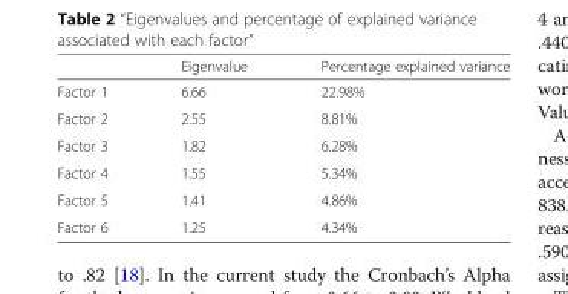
<table><thead><tr><td></td><td>Eigenvalue</td><td>Percentage explained variance</td></tr></thead><tbody><tr><td>Factor 1</td><td>6.66</td><td>22.98%</td></tr><tr><td>Factor 2</td><td>2.55</td><td>8.81%</td></tr><tr><td>Factor 3</td><td>1.82</td><td>6.28%</td></tr><tr><td>Factor 4</td><td>1.55</td><td>5.34%</td></tr><tr><td>Factor 5</td><td>1.41</td><td>4.86%</td></tr><tr><td>Factor 6</td><td>1.25</td><td>4.34%</td></tr></tbody></table>